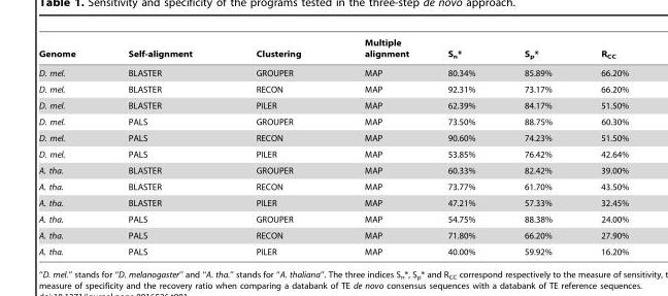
<table><thead><tr><td>Genome</td><td>Self-alignment</td><td>Clustering</td><td>Multiple alignment</td><td>S<sub>n</sub>*</td><td>S<sub>p</sub>*</td><td>R<sub>CC</sub></td></tr></thead><tbody><tr><td>D. mel.</td><td>BLASTER</td><td>GROUPER</td><td>MAP</td><td>80.34%</td><td>85.89%</td><td>66.20%</td></tr><tr><td>D. mel.</td><td>BLASTER</td><td>RECON</td><td>MAP</td><td>92.31%</td><td>73.17%</td><td>66.20%</td></tr><tr><td>D. mel.</td><td>BLASTER</td><td>PILER</td><td>MAP</td><td>62.39%</td><td>84.17%</td><td>51.50%</td></tr><tr><td>D. mel.</td><td>PALS</td><td>GROUPER</td><td>MAP</td><td>73.50%</td><td>88.75%</td><td>60.30%</td></tr><tr><td>D. mel.</td><td>PALS</td><td>RECON</td><td>MAP</td><td>90.60%</td><td>74.23%</td><td>51.50%</td></tr><tr><td>D. mel.</td><td>PALS</td><td>PILER</td><td>MAP</td><td>53.85%</td><td>76.42%</td><td>42.64%</td></tr><tr><td>A. tha.</td><td>BLASTER</td><td>GROUPER</td><td>MAP</td><td>60.33%</td><td>82.42%</td><td>39.00%</td></tr><tr><td>A. tha.</td><td>BLASTER</td><td>RECON</td><td>MAP</td><td>73.77%</td><td>61.70%</td><td>43.50%</td></tr><tr><td>A. tha.</td><td>BLASTER</td><td>PILER</td><td>MAP</td><td>47.21%</td><td>57.33%</td><td>32.45%</td></tr><tr><td>A. tha.</td><td>PALS</td><td>GROUPER</td><td>MAP</td><td>54.75%</td><td>88.38%</td><td>24.00%</td></tr><tr><td>A. tha.</td><td>PALS</td><td>RECON</td><td>MAP</td><td>71.80%</td><td>66.20%</td><td>27.90%</td></tr><tr><td>A. tha.</td><td>PALS</td><td>PILER</td><td>MAP</td><td>40.00%</td><td>59.92%</td><td>16.20%</td></tr></tbody></table>